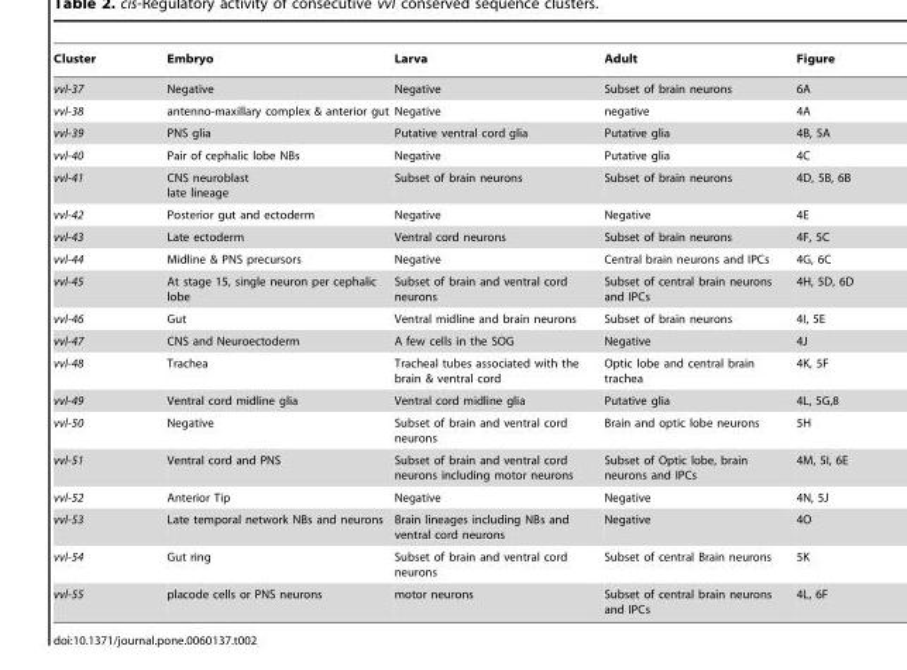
<table><thead><tr><td>Cluster</td><td>Embryo</td><td>Larva</td><td>Adult</td><td>Figure</td></tr></thead><tbody><tr><td>vvl-37</td><td>Negative</td><td>Negative</td><td>Subset of brain neurons</td><td>6A</td></tr><tr><td>vvl-38</td><td>antenno-maxillary complex &amp; anterior gut</td><td>Negative</td><td>negative</td><td>4A</td></tr><tr><td>vvl-39</td><td>PNS glia</td><td>Putative ventral cord glia</td><td>Putative glia</td><td>4B, 5A</td></tr><tr><td>vvl-40</td><td>Pair of cephalic lobe NBs</td><td>Negative</td><td>Putative glia</td><td>4C</td></tr><tr><td>vvl-41</td><td>CNS neuroblast late lineage</td><td>Subset of brain neurons</td><td>Subset of brain neurons</td><td>4D, 5B, 6B</td></tr><tr><td>vvl-42</td><td>Posterior gut and ectoderm</td><td>Negative</td><td>Negative</td><td>4E</td></tr><tr><td>vvl-43</td><td>Late ectoderm</td><td>Ventral cord neurons</td><td>Subset of brain neurons</td><td>4F, 5C</td></tr><tr><td>vvl-44</td><td>Midline &amp; PNS precursors</td><td>Negative</td><td>Central brain neurons and IPCs</td><td>4G, 6C</td></tr><tr><td>vvl-45</td><td>At stage 15, single neuron per cephalic lobe</td><td>Subset of brain and ventral cord neurons</td><td>Subset of central brain neurons and IPCs</td><td>4H, 5D, 6D</td></tr><tr><td>vvl-46</td><td>Gut</td><td>Ventral midline and brain neurons</td><td>Subset of brain neurons</td><td>4I, 5E</td></tr><tr><td>vvl-47</td><td>CNS and Neuroectoderm</td><td>A few cells in the SOG</td><td>Negative</td><td>4J</td></tr><tr><td>vvl-48</td><td>Trachea</td><td>Tracheal tubes associated with the brain &amp; ventral cord</td><td>Optic lobe and central brain trachea</td><td>4K, 5F</td></tr><tr><td>vvl-49</td><td>Ventral cord midline glia</td><td>Ventral cord midline glia</td><td>Putative glia</td><td>4L, 5G,8</td></tr><tr><td>vvl-50</td><td>Negative</td><td>Subset of brain and ventral cord neurons</td><td>Brain and optic lobe neurons</td><td>5H</td></tr><tr><td>vvl-51</td><td>Ventral cord and PNS</td><td>Subset of brain and ventral cord neurons including motor neurons</td><td>Subset of Optic lobe, brain neurons and IPCs</td><td>4M, 5I, 6E</td></tr><tr><td>vvl-52</td><td>Anterior Tip</td><td>Negative</td><td>Negative</td><td>4N, 5J</td></tr><tr><td>vvl-53</td><td>Late temporal network NBs and neurons</td><td>Brain lineages including NBs and ventral cord neurons</td><td>Negative</td><td>4O</td></tr><tr><td>vvl-54</td><td>Gut ring</td><td>Subset of brain and ventral cord neurons</td><td>Subset of central Brain neurons</td><td>5K</td></tr><tr><td>vvl-55</td><td>placode cells or PNS neurons</td><td>motor neurons</td><td>Subset of central brain neurons and IPCs</td><td>4L, 6F</td></tr></tbody></table>